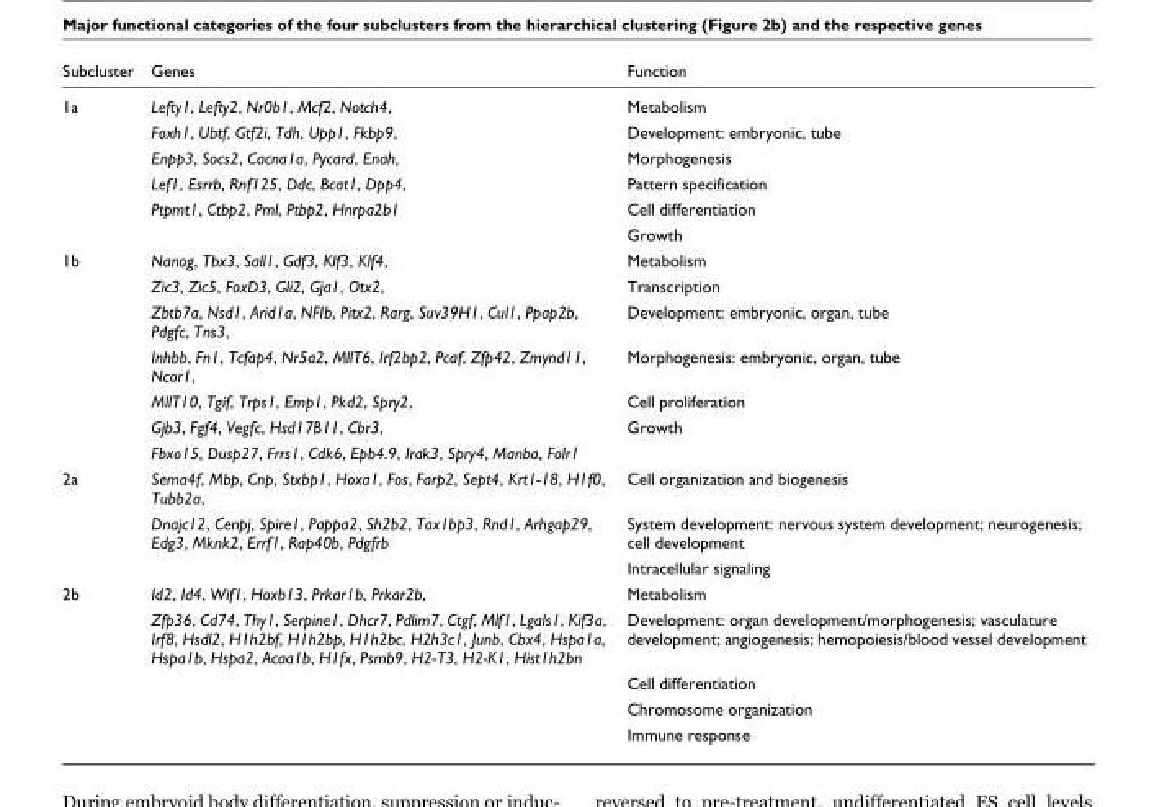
<table><thead><tr><td>Subcluster</td><td>Genes</td><td>Function</td></tr></thead><tbody><tr><td rowspan="6">1a</td><td>Lefty1, Lefty2, Nr0b1, Mcf2, Notch4,</td><td>Metabolism</td></tr><tr><td>Foxh1, Ubtf, Gtf2i, Tdh, Upp1, Fkbp9,</td><td>Development: embryonic, tube</td></tr><tr><td>Enpp3, Socs2, Cacna1a, Pycard, Enah,</td><td>Morphogenesis</td></tr><tr><td>Lef1, Esrrb, Rnf125, Ddc, Bcat1, Dpp4,</td><td>Pattern specification</td></tr><tr><td>Ptpmt1, Ctbp2, Pml, Ptbp2, Hnrpa2b1</td><td>Cell differentiation</td></tr><tr><td></td><td>Growth</td></tr><tr><td rowspan="7">1b</td><td>Nanog, Tbx3, Sall1, Gdf3, Klf3, Klf4,</td><td>Metabolism</td></tr><tr><td>Zic3, Zic5, FoxD3, Gli2, Gja1, Otx2,</td><td>Transcription</td></tr><tr><td>Zbtb7a, Nsd1, Arid1a, NFIb, Pitx2, Rarg, Suv39H1, Cul1, Ppap2b, Pdgfc, Tns3,</td><td>Development: embryonic, organ, tube</td></tr><tr><td>Inhbb, Fn1, Tcfap4, Nr5a2, MllT6, Irf2bp2, Pcaf, Zfp42, Zmynd11, Ncor1,</td><td>Morphogenesis: embryonic, organ, tube</td></tr><tr><td>MllT10, Tgif, Trps1, Emp1, Pkd2, Spry2,</td><td>Cell proliferation</td></tr><tr><td>Gjb3, Fgf4, Vegfc, Hsd17B11, Cbr3,</td><td>Growth</td></tr><tr><td>Fbxo15, Dusp27, Frrs1, Cdk6, Epb4.9, Irak3, Spry4, Manba, Folr1</td><td></td></tr><tr><td rowspan="3">2a</td><td>Sema4f, Mbp, Cnp, Stxbp1, Hoxa1, Fos, Farp2, Sept4, Krt1-18, H1f0, Tubb2a,</td><td>Cell organization and biogenesis</td></tr><tr><td>Dnajc12, Cenpj, Spire1, Pappa2, Sh2b2, Tax1bp3, Rnd1, Arhgap29, Edg3, Mknk2, Errf1, Rap40b, Pdgfrb</td><td>System development: nervous system development; neurogenesis; cell development</td></tr><tr><td></td><td>Intracellular signaling</td></tr><tr><td rowspan="5">2b</td><td>Id2, Id4, Wif1, Hoxb13, Prkar1b, Prkar2b,</td><td>Metabolism</td></tr><tr><td>Zfp36, Cd74, Thy1, Serpine1, Dhcr7, Pdlim7, Ctgf, Mlf1, Lgals1, Kif3a, Irf8, Hsdl2, H1h2bf, H1h2bp, H1h2bc, H2h3c1, Junb, Cbx4, Hspa1a, Hspa1b, Hspa2, Acaa1b, H1fx, Psmb9, H2-T3, H2-K1, Hist1h2bn</td><td>Development: organ development/morphogenesis; vasculature development; angiogenesis; hemopoiesis/blood vessel development</td></tr><tr><td></td><td>Cell differentiation</td></tr><tr><td></td><td>Chromosome organization</td></tr><tr><td></td><td>Immune response</td></tr></tbody></table>